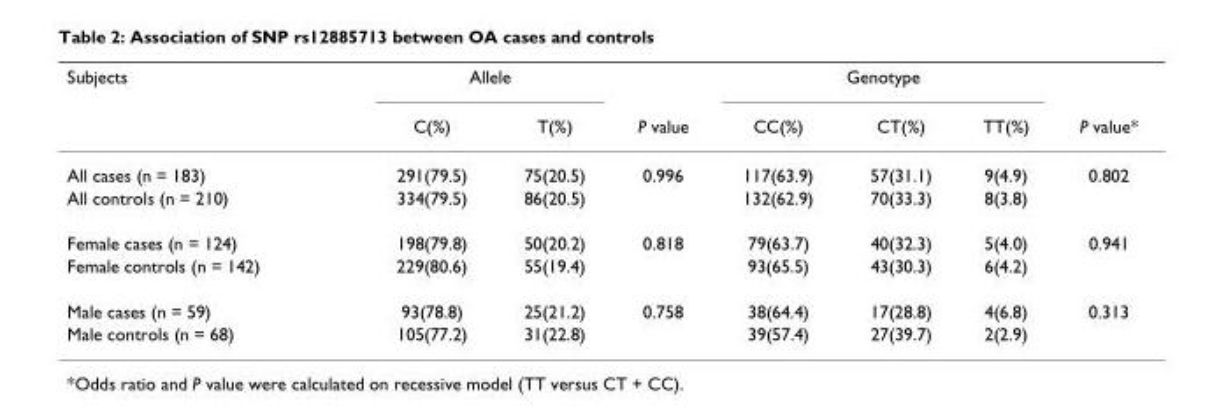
<table><thead><tr><td rowspan="2">Subjects</td><td colspan="2">Allele</td><td rowspan="2">P value</td><td colspan="3">Genotype</td><td rowspan="2">P value*</td></tr><tr><td>C(%)</td><td>T(%)</td><td>CC(%)</td><td>CT(%)</td><td>TT(%)</td></tr></thead><tbody><tr><td>All cases (n = 183)</td><td>291(79.5)</td><td>75(20.5)</td><td>0.996</td><td>117(63.9)</td><td>57(31.1)</td><td>9(4.9)</td><td>0.802</td></tr><tr><td>All controls (n = 210)</td><td>334(79.5)</td><td>86(20.5)</td><td></td><td>132(62.9)</td><td>70(33.3)</td><td>8(3.8)</td><td></td></tr><tr><td>Female cases (n = 124)</td><td>198(79.8)</td><td>50(20.2)</td><td>0.818</td><td>79(63.7)</td><td>40(32.3)</td><td>5(4.0)</td><td>0.941</td></tr><tr><td>Female controls (n = 142)</td><td>229(80.6)</td><td>55(19.4)</td><td></td><td>93(65.5)</td><td>43(30.3)</td><td>6(4.2)</td><td></td></tr><tr><td>Male cases (n = 59)</td><td>93(78.8)</td><td>25(21.2)</td><td>0.758</td><td>38(64.4)</td><td>17(28.8)</td><td>4(6.8)</td><td>0.313</td></tr><tr><td>Male controls (n = 68)</td><td>105(77.2)</td><td>31(22.8)</td><td></td><td>39(57.4)</td><td>27(39.7)</td><td>2(2.9)</td><td></td></tr></tbody></table>